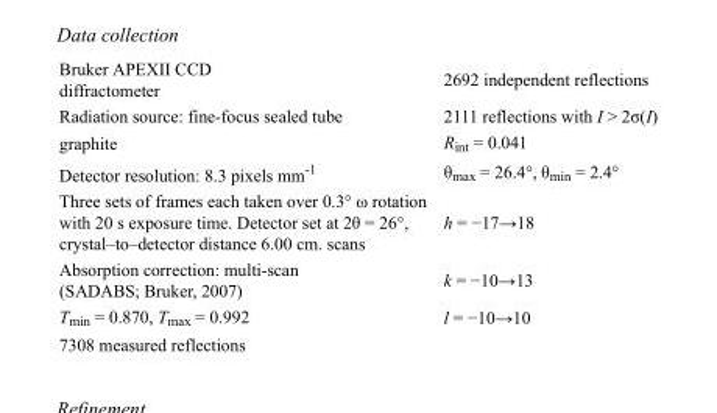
<table><tbody><tr><td>Bruker APEXII CCD diffractometer</td><td>2692 independent reflections</td></tr><tr><td>Radiation source: fine-focus sealed tube</td><td>2111 reflections with I &gt; 2σ(I)</td></tr><tr><td>graphite</td><td>R<sub>int</sub> = 0.041</td></tr><tr><td>Detector resolution: 8.3 pixels mm<sup>-1</sup></td><td>θ<sub>max</sub> = 26.4°, θ<sub>min</sub> = 2.4°</td></tr><tr><td>Three sets of frames each taken over 0.3° ω rotation with 20 s exposure time. Detector set at 2θ = 26°, crystal–to–detector distance 6.00 cm. scans</td><td>h = −17→18</td></tr><tr><td>Absorption correction: multi-scan (SADABS; Bruker, 2007)</td><td>k = −10→13</td></tr><tr><td>T<sub>min</sub> = 0.870, T<sub>max</sub> = 0.992</td><td>l = −10→10</td></tr><tr><td>7308 measured reflections</td><td></td></tr></tbody></table>